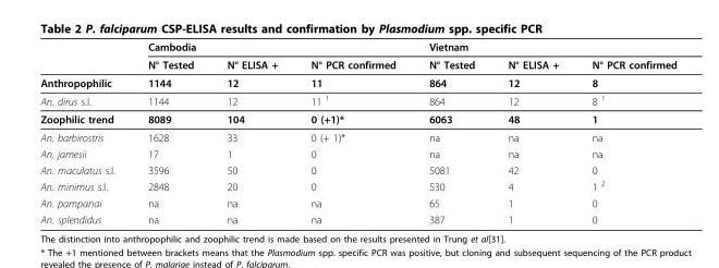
<table><thead><tr><td rowspan="2"></td><td colspan="3">Cambodia</td><td colspan="3">Vietnam</td></tr><tr><td>N° Tested</td><td>N° ELISA +</td><td>N° PCR confirmed</td><td>N° Tested</td><td>N° ELISA +</td><td>N° PCR confirmed</td></tr></thead><tbody><tr><td>Anthropophilic</td><td>1144</td><td>12</td><td>11</td><td>864</td><td>12</td><td>8</td></tr><tr><td>An. dirus s.l.</td><td>1144</td><td>12</td><td>11 <sup>1</sup></td><td>864</td><td>12</td><td>8 <sup>1</sup></td></tr><tr><td>Zoophilic trend</td><td>8089</td><td>104</td><td>0 (+1)*</td><td>6063</td><td>48</td><td>1</td></tr><tr><td>An. barbirostris</td><td>1628</td><td>33</td><td>0 (+ 1)*</td><td>na</td><td>na</td><td>na</td></tr><tr><td>An. jamesii</td><td>17</td><td>1</td><td>0</td><td>na</td><td>na</td><td>na</td></tr><tr><td>An. maculatus s.l.</td><td>3596</td><td>50</td><td>0</td><td>5081</td><td>42</td><td>0</td></tr><tr><td>An. minimus s.l.</td><td>2848</td><td>20</td><td>0</td><td>530</td><td>4</td><td>1 <sup>2</sup></td></tr><tr><td>An. pampanai</td><td>na</td><td>na</td><td>na</td><td>65</td><td>1</td><td>0</td></tr><tr><td>An. splendidus</td><td>na</td><td>na</td><td>na</td><td>387</td><td>1</td><td>0</td></tr></tbody></table>